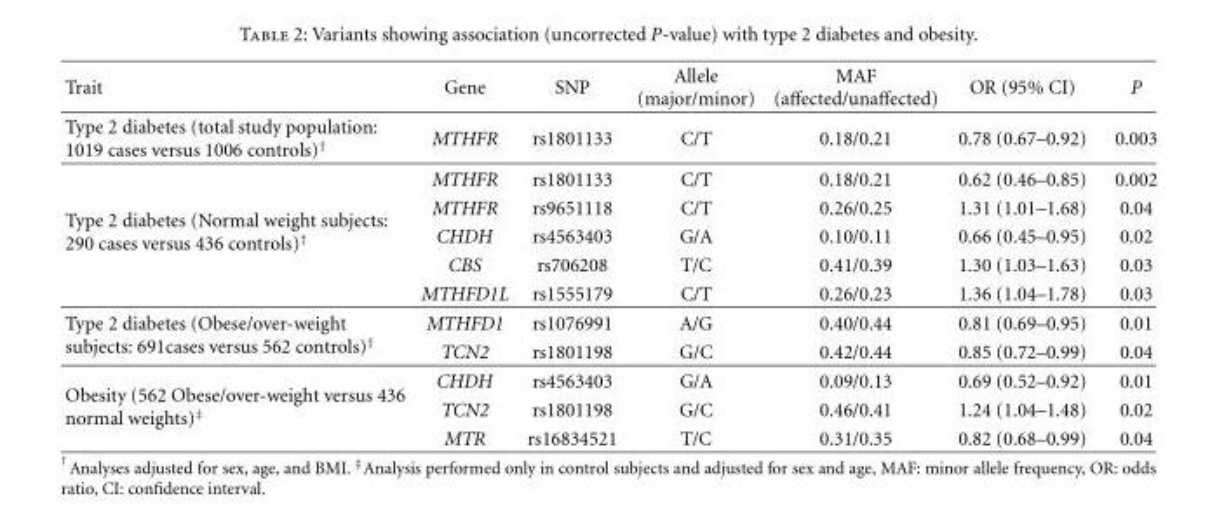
<table><thead><tr><td>Trait</td><td>Gene</td><td>SNP</td><td>Allele (major/minor)</td><td>MAF (affected/unaffected)</td><td>OR (95% CI)</td><td>P</td></tr></thead><tbody><tr><td>Type 2 diabetes (total study population: 1019 cases versus 1006 controls)<sup>†</sup></td><td>MTHFR</td><td>rs1801133</td><td>C/T</td><td>0.18/0.21</td><td>0.78 (0.67–0.92)</td><td>0.003</td></tr><tr><td rowspan="5">Type 2 diabetes (Normal weight subjects: 290 cases versus 436 controls)<sup>†</sup></td><td>MTHFR</td><td>rs1801133</td><td>C/T</td><td>0.18/0.21</td><td>0.62 (0.46–0.85)</td><td>0.002</td></tr><tr><td>MTHFR</td><td>rs9651118</td><td>C/T</td><td>0.26/0.25</td><td>1.31 (1.01–1.68)</td><td>0.04</td></tr><tr><td>CHDH</td><td>rs4563403</td><td>G/A</td><td>0.10/0.11</td><td>0.66 (0.45–0.95)</td><td>0.02</td></tr><tr><td>CBS</td><td>rs706208</td><td>T/C</td><td>0.41/0.39</td><td>1.30 (1.03–1.63)</td><td>0.03</td></tr><tr><td>MTHFD1L</td><td>rs1555179</td><td>C/T</td><td>0.26/0.23</td><td>1.36 (1.04–1.78)</td><td>0.03</td></tr><tr><td rowspan="2">Type 2 diabetes (Obese/over-weight subjects: 691cases versus 562 controls)<sup>†</sup></td><td>MTHFD1</td><td>rs1076991</td><td>A/G</td><td>0.40/0.44</td><td>0.81 (0.69–0.95)</td><td>0.01</td></tr><tr><td>TCN2</td><td>rs1801198</td><td>G/C</td><td>0.42/0.44</td><td>0.85 (0.72–0.99)</td><td>0.04</td></tr><tr><td rowspan="3">Obesity (562 Obese/over-weight versus 436 normal weights)<sup>‡</sup></td><td>CHDH</td><td>rs4563403</td><td>G/A</td><td>0.09/0.13</td><td>0.69 (0.52–0.92)</td><td>0.01</td></tr><tr><td>TCN2</td><td>rs1801198</td><td>G/C</td><td>0.46/0.41</td><td>1.24 (1.04–1.48)</td><td>0.02</td></tr><tr><td>MTR</td><td>rs16834521</td><td>T/C</td><td>0.31/0.35</td><td>0.82 (0.68–0.99)</td><td>0.04</td></tr></tbody></table>